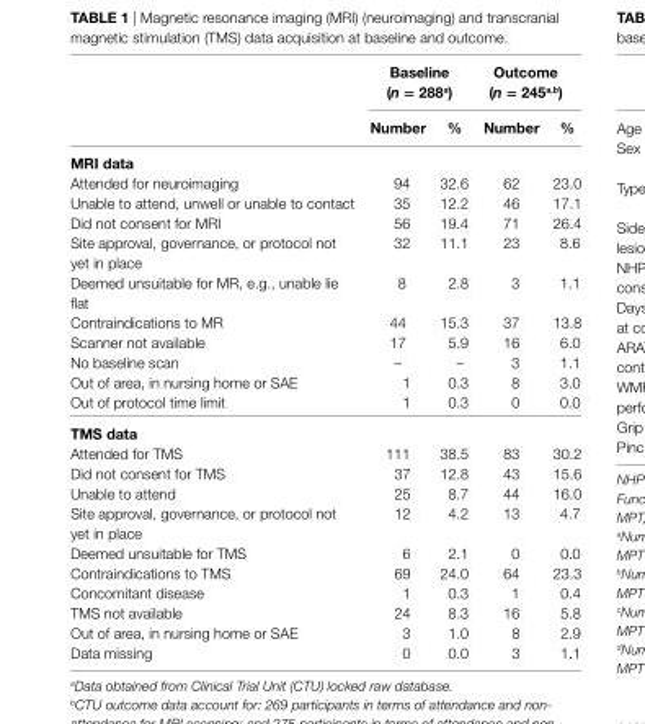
<table><thead><tr><td rowspan="2"></td><td colspan="2">Baseline (n = 288<sup>a</sup>)</td><td colspan="2">Outcome (n = 245<sup>a,b</sup>)</td></tr><tr><td>number</td><td>%</td><td>number</td><td>%</td></tr></thead><tbody><tr><td colspan="5">Mri data</td></tr><tr><td>Attended for neuroimaging</td><td>94</td><td>32.6</td><td>62</td><td>23.0</td></tr><tr><td>Unable to attend, unwell or unable to contact</td><td>35</td><td>12.2</td><td>46</td><td>17.1</td></tr><tr><td>Did not consent for MRI</td><td>56</td><td>19.4</td><td>71</td><td>26.4</td></tr><tr><td>Site approval, governance, or protocol not yet in place</td><td>32</td><td>11.1</td><td>23</td><td>8.6</td></tr><tr><td>Deemed unsuitable for MR, e.g., unable lie flat</td><td>8</td><td>2.8</td><td>3</td><td>1.1</td></tr><tr><td>Contraindications to MR</td><td>44</td><td>15.3</td><td>37</td><td>13.8</td></tr><tr><td>Scanner not available</td><td>17</td><td>5.9</td><td>16</td><td>6.0</td></tr><tr><td>No baseline scan</td><td>–</td><td>–</td><td>3</td><td>1.1</td></tr><tr><td>Out of area, in nursing home or SAE</td><td>1</td><td>0.3</td><td>8</td><td>3.0</td></tr><tr><td>Out of protocol time limit</td><td>1</td><td>0.3</td><td>0</td><td>0.0</td></tr><tr><td colspan="5">TMs data</td></tr><tr><td>Attended for TMS</td><td>111</td><td>38.5</td><td>83</td><td>30.2</td></tr><tr><td>Did not consent for TMS</td><td>37</td><td>12.8</td><td>43</td><td>15.6</td></tr><tr><td>Unable to attend</td><td>25</td><td>8.7</td><td>44</td><td>16.0</td></tr><tr><td>Site approval, governance, or protocol not yet in place</td><td>12</td><td>4.2</td><td>13</td><td>4.7</td></tr><tr><td>Deemed unsuitable for TMS</td><td>6</td><td>2.1</td><td>0</td><td>0.0</td></tr><tr><td>Contraindications to TMS</td><td>69</td><td>24.0</td><td>64</td><td>23.3</td></tr><tr><td>Concomitant disease</td><td>1</td><td>0.3</td><td>1</td><td>0.4</td></tr><tr><td>TMS not available</td><td>24</td><td>8.3</td><td>16</td><td>5.8</td></tr><tr><td>Out of area, in nursing home or SAE</td><td>3</td><td>1.0</td><td>8</td><td>2.9</td></tr><tr><td>Data missing</td><td>0</td><td>0.0</td><td>3</td><td>1.1</td></tr></tbody></table>